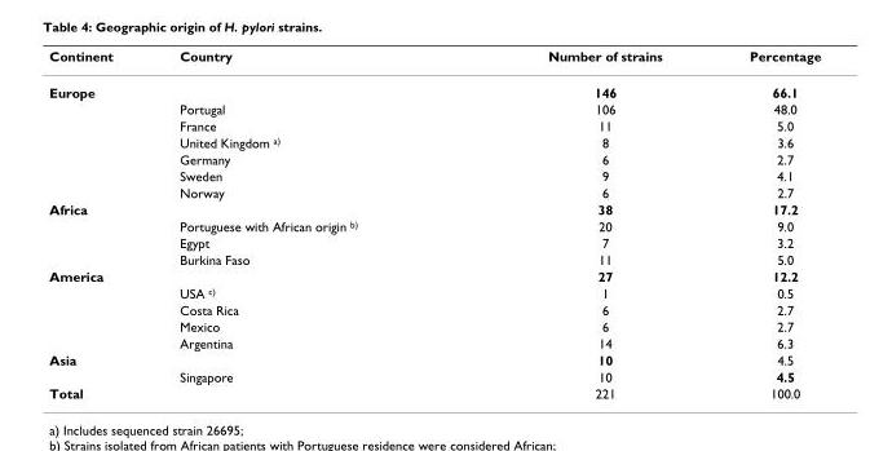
<table><thead><tr><td>Continent</td><td>Country</td><td>Number of strains</td><td>Percentage</td></tr></thead><tbody><tr><td rowspan="7">Europe</td><td></td><td>146</td><td>66.1</td></tr><tr><td>Portugal</td><td>106</td><td>48.0</td></tr><tr><td>France</td><td>11</td><td>5.0</td></tr><tr><td>United Kingdom <sup>a)</sup></td><td>8</td><td>3.6</td></tr><tr><td>Germany</td><td>6</td><td>2.7</td></tr><tr><td>Sweden</td><td>9</td><td>4.1</td></tr><tr><td>Norway</td><td>6</td><td>2.7</td></tr><tr><td rowspan="4">Africa</td><td></td><td>38</td><td>17.2</td></tr><tr><td>Portuguese with African origin <sup>b)</sup></td><td>20</td><td>9.0</td></tr><tr><td>Egypt</td><td>7</td><td>3.2</td></tr><tr><td>Burkina Faso</td><td>11</td><td>5.0</td></tr><tr><td rowspan="5">America</td><td></td><td>27</td><td>12.2</td></tr><tr><td>USA <sup>c)</sup></td><td>1</td><td>0.5</td></tr><tr><td>Costa Rica</td><td>6</td><td>2.7</td></tr><tr><td>Mexico</td><td>6</td><td>2.7</td></tr><tr><td>Argentina</td><td>14</td><td>6.3</td></tr><tr><td rowspan="2">Asia</td><td></td><td>10</td><td>4.5</td></tr><tr><td>Singapore</td><td>10</td><td>4.5</td></tr><tr><td>Total</td><td></td><td>221</td><td>100.0</td></tr></tbody></table>